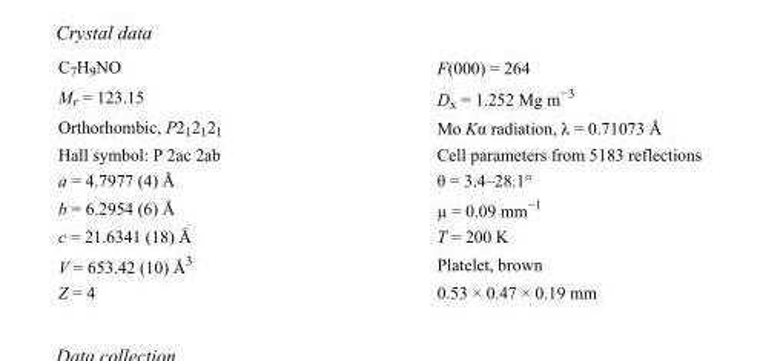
<table><tbody><tr><td>C<sub>7</sub>H<sub>9</sub>NO</td><td>F(000) = 264</td></tr><tr><td>M<sub>r</sub> = 123.15</td><td>D<sub>x</sub> = 1.252 Mg m<sup>−3</sup></td></tr><tr><td>Orthorhombic, P2<sub>1</sub>2<sub>1</sub>2<sub>1</sub></td><td>Mo Kα radiation, λ = 0.71073 Å</td></tr><tr><td>Hall symbol: P 2ac 2ab</td><td>Cell parameters from 5183 reflections</td></tr><tr><td>a = 4.7977 (4) Å</td><td>θ = 3.4–28.1°</td></tr><tr><td>b = 6.2954 (6) Å</td><td>µ = 0.09 mm<sup>−1</sup></td></tr><tr><td>c = 21.6341 (18) Å</td><td>T = 200 K</td></tr><tr><td>V = 653.42 (10) Å<sup>3</sup></td><td>Platelet, brown</td></tr><tr><td>Z = 4</td><td>0.53 × 0.47 × 0.19 mm</td></tr></tbody></table>